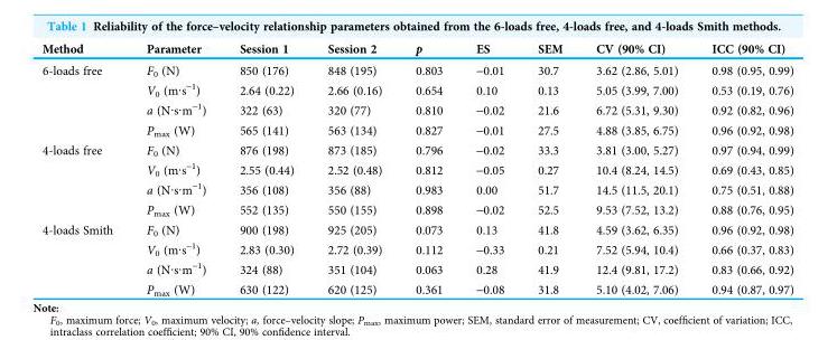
<table><thead><tr><td>Method</td><td>Parameter</td><td>Session 1</td><td>Session 2</td><td>p</td><td>ES</td><td>SEM</td><td>CV (90% CI)</td><td>ICC (90% CI)</td></tr></thead><tbody><tr><td rowspan="4">6-loads free</td><td>F<sub>0</sub> (N)</td><td>850 (176)</td><td>848 (195)</td><td>0.803</td><td>-0.01</td><td>30.7</td><td>3.62 (2.86, 5.01)</td><td>0.98 (0.95, 0.99)</td></tr><tr><td>V<sub>0</sub> (m·s<sup>-1</sup>)</td><td>2.64 (0.22)</td><td>2.66 (0.16)</td><td>0.654</td><td>0.10</td><td>0.13</td><td>5.05 (3.99, 7.00)</td><td>0.53 (0.19, 0.76)</td></tr><tr><td>a (N·s·m<sup>-1</sup>)</td><td>322 (63)</td><td>320 (77)</td><td>0.810</td><td>-0.02</td><td>21.6</td><td>6.72 (5.31, 9.30)</td><td>0.92 (0.82, 0.96)</td></tr><tr><td>P<sub>max</sub> (W)</td><td>565 (141)</td><td>563 (134)</td><td>0.827</td><td>-0.01</td><td>27.5</td><td>4.88 (3.85, 6.75)</td><td>0.96 (0.92, 0.98)</td></tr><tr><td rowspan="4">4-loads free</td><td>F<sub>0</sub> (N)</td><td>876 (198)</td><td>873 (185)</td><td>0.796</td><td>-0.02</td><td>33.3</td><td>3.81 (3.00, 5.27)</td><td>0.97 (0.94, 0.99)</td></tr><tr><td>V<sub>0</sub> (m·s<sup>-1</sup>)</td><td>2.55 (0.44)</td><td>2.52 (0.48)</td><td>0.812</td><td>-0.05</td><td>0.27</td><td>10.4 (8.24, 14.5)</td><td>0.69 (0.43, 0.85)</td></tr><tr><td>a (N·s·m<sup>-1</sup>)</td><td>356 (108)</td><td>356 (88)</td><td>0.983</td><td>0.00</td><td>51.7</td><td>14.5 (11.5, 20.1)</td><td>0.75 (0.51, 0.88)</td></tr><tr><td>P<sub>max</sub> (W)</td><td>552 (135)</td><td>550 (155)</td><td>0.898</td><td>-0.02</td><td>52.5</td><td>9.53 (7.52, 13.2)</td><td>0.88 (0.76, 0.95)</td></tr><tr><td rowspan="4">4-loads Smith</td><td>F<sub>0</sub> (N)</td><td>900 (198)</td><td>925 (205)</td><td>0.073</td><td>0.13</td><td>41.8</td><td>4.59 (3.62, 6.35)</td><td>0.96 (0.92, 0.98)</td></tr><tr><td>V<sub>0</sub> (m·s<sup>-1</sup>)</td><td>2.83 (0.30)</td><td>2.72 (0.39)</td><td>0.112</td><td>-0.33</td><td>0.21</td><td>7.52 (5.94, 10.4)</td><td>0.66 (0.37, 0.83)</td></tr><tr><td>a (N·s·m<sup>-1</sup>)</td><td>324 (88)</td><td>351 (104)</td><td>0.063</td><td>0.28</td><td>41.9</td><td>12.4 (9.81, 17.2)</td><td>0.83 (0.66, 0.92)</td></tr><tr><td>P<sub>max</sub> (W)</td><td>630 (122)</td><td>620 (125)</td><td>0.361</td><td>-0.08</td><td>31.8</td><td>5.10 (4.02, 7.06)</td><td>0.94 (0.87, 0.97)</td></tr></tbody></table>